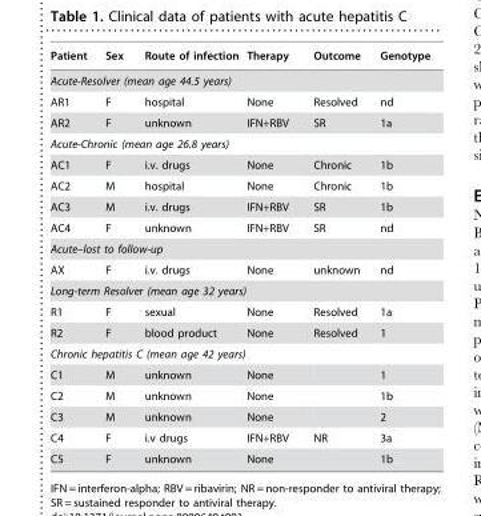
<table><thead><tr><td>Patient</td><td>Sex</td><td>Route of infection</td><td>Therapy</td><td>Outcome</td><td>Genotype</td></tr></thead><tbody><tr><td colspan="6">Acute-Resolver (mean age 44.5 years)</td></tr><tr><td>AR1</td><td>F</td><td>hospital</td><td>None</td><td>Resolved</td><td>nd</td></tr><tr><td>AR2</td><td>F</td><td>unknown</td><td>IFN+RBV</td><td>SR</td><td>1a</td></tr><tr><td colspan="6">Acute-Chronic (mean age 26.8 years)</td></tr><tr><td>AC1</td><td>F</td><td>i.v. drugs</td><td>None</td><td>Chronic</td><td>1b</td></tr><tr><td>AC2</td><td>M</td><td>hospital</td><td>None</td><td>Chronic</td><td>1b</td></tr><tr><td>AC3</td><td>M</td><td>i.v. drugs</td><td>IFN+RBV</td><td>SR</td><td>1b</td></tr><tr><td>AC4</td><td>F</td><td>unknown</td><td>IFN+RBV</td><td>SR</td><td>nd</td></tr><tr><td colspan="6">Acute–lost to follow-up</td></tr><tr><td>AX</td><td>F</td><td>i.v. drugs</td><td>None</td><td>unknown</td><td>nd</td></tr><tr><td colspan="6">Long-term Resolver (mean age 32 years)</td></tr><tr><td>R1</td><td>F</td><td>sexual</td><td>None</td><td>Resolved</td><td>1a</td></tr><tr><td>R2</td><td>F</td><td>blood product</td><td>None</td><td>Resolved</td><td>1</td></tr><tr><td colspan="6">Chronic hepatitis C (mean age 42 years)</td></tr><tr><td>C1</td><td>M</td><td>unknown</td><td>None</td><td></td><td>1</td></tr><tr><td>C2</td><td>M</td><td>unknown</td><td>None</td><td></td><td>1b</td></tr><tr><td>C3</td><td>M</td><td>unknown</td><td>None</td><td></td><td>2</td></tr><tr><td>C4</td><td>F</td><td>i.v drugs</td><td>IFN+RBV</td><td>NR</td><td>3a</td></tr><tr><td>C5</td><td>F</td><td>unknown</td><td>None</td><td></td><td>1b</td></tr></tbody></table>